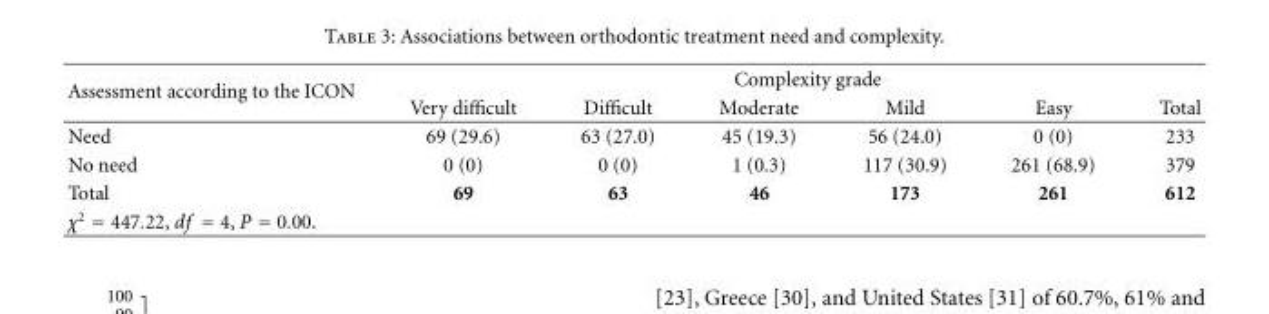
<table><thead><tr><td rowspan="2">Assessment according to the ICON</td><td colspan="6">Complexity grade</td></tr><tr><td>Very difficult</td><td>Difficult</td><td>Moderate</td><td>Mild</td><td>Easy</td><td>Total</td></tr></thead><tbody><tr><td>Need</td><td>69 (29.6)</td><td>63 (27.0)</td><td>45 (19.3)</td><td>56 (24.0)</td><td>0 (0)</td><td>233</td></tr><tr><td>No need</td><td>0 (0)</td><td>0 (0)</td><td>1 (0.3)</td><td>117 (30.9)</td><td>261 (68.9)</td><td>379</td></tr><tr><td>Total</td><td>69</td><td>63</td><td>46</td><td>173</td><td>261</td><td>612</td></tr><tr><td>χ<sup>2</sup> = 447.22, df = 4, P = 0.00.</td><td></td><td></td><td></td><td></td><td></td><td></td></tr></tbody></table>